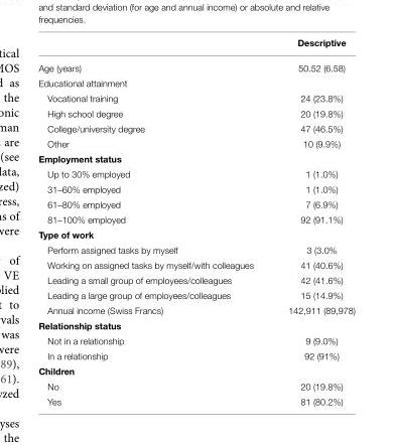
<table><thead><tr><td></td><td>Descriptive</td></tr></thead><tbody><tr><td>Age (years)</td><td>50.52 (6.58)</td></tr><tr><td colspan="2">Educational attainment</td></tr><tr><td>Vocational training</td><td>24 (23.8%)</td></tr><tr><td>High school degree</td><td>20 (19.8%)</td></tr><tr><td>College/university degree</td><td>47 (46.5%)</td></tr><tr><td>Other</td><td>10 (9.9%)</td></tr><tr><td colspan="2">Employment status</td></tr><tr><td>Up to 30% employed</td><td>1 (1.0%)</td></tr><tr><td>31–60% employed</td><td>1 (1.0%)</td></tr><tr><td>61–80% employed</td><td>7 (6.9%)</td></tr><tr><td>81–100% employed</td><td>92 (91.1%)</td></tr><tr><td colspan="2">Type of work</td></tr><tr><td>Perform assigned tasks by myself</td><td>3 (3.0%</td></tr><tr><td>Working on assigned tasks by myself/with colleagues</td><td>41 (40.6%)</td></tr><tr><td>Leading a small group of employees/colleagues</td><td>42 (41.6%)</td></tr><tr><td>Leading a large group of employees/colleagues</td><td>15 (14.9%)</td></tr><tr><td>Annual income (Swiss Francs)</td><td>142,911 (89,978)</td></tr><tr><td colspan="2">Relationship status</td></tr><tr><td>Not in a relationship</td><td>9 (9.0%)</td></tr><tr><td>In a relationship</td><td>92 (91%)</td></tr><tr><td colspan="2">Children</td></tr><tr><td>No</td><td>20 (19.8%)</td></tr><tr><td>Yes</td><td>81 (80.2%)</td></tr></tbody></table>